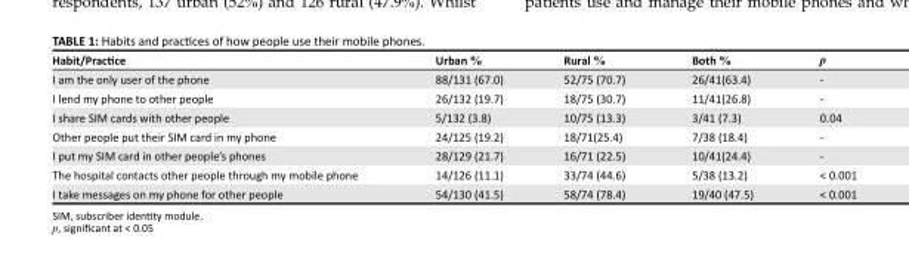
<table><thead><tr><td>Habit/Practice</td><td>Urban %</td><td>Rural %</td><td>Both %</td><td>p</td></tr></thead><tbody><tr><td>I am the only user of the phone</td><td>88/131 (67.0)</td><td>52/75 (70.7)</td><td>26/41(63.4)</td><td>-</td></tr><tr><td>I lend my phone to other people</td><td>26/132 (19.7)</td><td>18/75 (30.7)</td><td>11/41(26.8)</td><td>-</td></tr><tr><td>I share SIM cards with other people</td><td>5/132 (3.8)</td><td>10/75 (13.3)</td><td>3/41 (7.3)</td><td>0.04</td></tr><tr><td>Other people put their SIM card in my phone</td><td>24/125 (19.2)</td><td>18/71(25.4)</td><td>7/38 (18.4)</td><td>-</td></tr><tr><td>I put my SIM card in other people’s phones</td><td>28/129 (21.7)</td><td>16/71 (22.5)</td><td>10/41(24.4)</td><td>-</td></tr><tr><td>The hospital contacts other people through my mobile phone</td><td>14/126 (11.1)</td><td>33/74 (44.6)</td><td>5/38 (13.2)</td><td>&lt; 0.001</td></tr><tr><td>I take messages on my phone for other people</td><td>54/130 (41.5)</td><td>58/74 (78.4)</td><td>19/40 (47.5)</td><td>&lt; 0.001</td></tr></tbody></table>